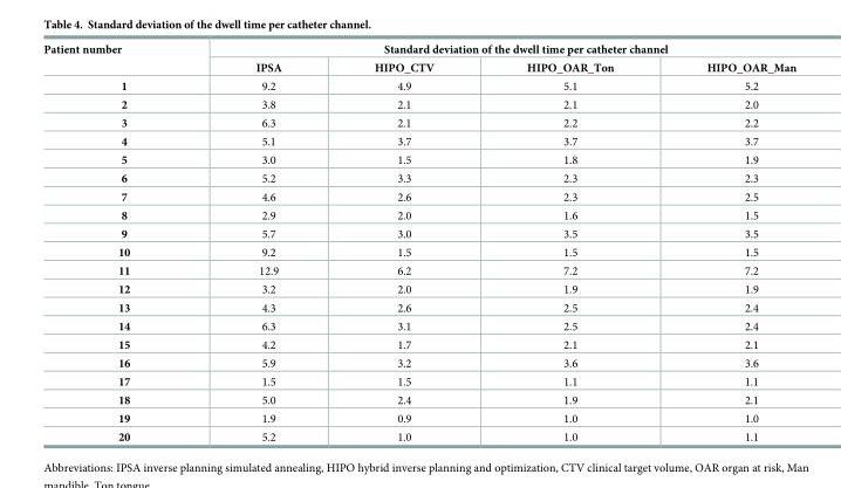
<table><thead><tr><td rowspan="2">Patient number</td><td colspan="4">Standard deviation of the dwell time per catheter channel</td></tr><tr><td>IPSA</td><td>HIPO_CTV</td><td>HIPO_OAR_Ton</td><td>HIPO_OAR_Man</td></tr></thead><tbody><tr><td>1</td><td>9.2</td><td>4.9</td><td>5.1</td><td>5.2</td></tr><tr><td>2</td><td>3.8</td><td>2.1</td><td>2.1</td><td>2.0</td></tr><tr><td>3</td><td>6.3</td><td>2.1</td><td>2.2</td><td>2.2</td></tr><tr><td>4</td><td>5.1</td><td>3.7</td><td>3.7</td><td>3.7</td></tr><tr><td>5</td><td>3.0</td><td>1.5</td><td>1.8</td><td>1.9</td></tr><tr><td>6</td><td>5.2</td><td>3.3</td><td>2.3</td><td>2.3</td></tr><tr><td>7</td><td>4.6</td><td>2.6</td><td>2.3</td><td>2.5</td></tr><tr><td>8</td><td>2.9</td><td>2.0</td><td>1.6</td><td>1.5</td></tr><tr><td>9</td><td>5.7</td><td>3.0</td><td>3.5</td><td>3.5</td></tr><tr><td>10</td><td>9.2</td><td>1.5</td><td>1.5</td><td>1.5</td></tr><tr><td>11</td><td>12.9</td><td>6.2</td><td>7.2</td><td>7.2</td></tr><tr><td>12</td><td>3.2</td><td>2.0</td><td>1.9</td><td>1.9</td></tr><tr><td>13</td><td>4.3</td><td>2.6</td><td>2.5</td><td>2.4</td></tr><tr><td>14</td><td>6.3</td><td>3.1</td><td>2.5</td><td>2.4</td></tr><tr><td>15</td><td>4.2</td><td>1.7</td><td>2.1</td><td>2.1</td></tr><tr><td>16</td><td>5.9</td><td>3.2</td><td>3.6</td><td>3.6</td></tr><tr><td>17</td><td>1.5</td><td>1.5</td><td>1.1</td><td>1.1</td></tr><tr><td>18</td><td>5.0</td><td>2.4</td><td>1.9</td><td>2.1</td></tr><tr><td>19</td><td>1.9</td><td>0.9</td><td>1.0</td><td>1.0</td></tr><tr><td>20</td><td>5.2</td><td>1.0</td><td>1.0</td><td>1.1</td></tr></tbody></table>